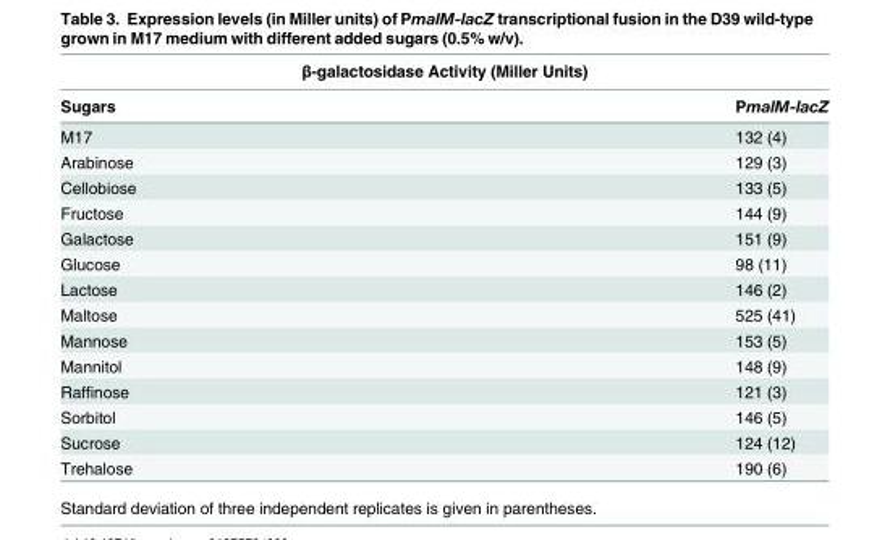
<table><thead><tr><td colspan="2">β-galactosidase Activity (Miller Units)</td></tr><tr><td>Sugars</td><td>PmalM-lacZ</td></tr></thead><tbody><tr><td>M17</td><td>132 (4)</td></tr><tr><td>Arabinose</td><td>129 (3)</td></tr><tr><td>Cellobiose</td><td>133 (5)</td></tr><tr><td>Fructose</td><td>144 (9)</td></tr><tr><td>Galactose</td><td>151 (9)</td></tr><tr><td>Glucose</td><td>98 (11)</td></tr><tr><td>Lactose</td><td>146 (2)</td></tr><tr><td>Maltose</td><td>525 (41)</td></tr><tr><td>Mannose</td><td>153 (5)</td></tr><tr><td>Mannitol</td><td>148 (9)</td></tr><tr><td>Raffinose</td><td>121 (3)</td></tr><tr><td>Sorbitol</td><td>146 (5)</td></tr><tr><td>Sucrose</td><td>124 (12)</td></tr><tr><td>Trehalose</td><td>190 (6)</td></tr></tbody></table>